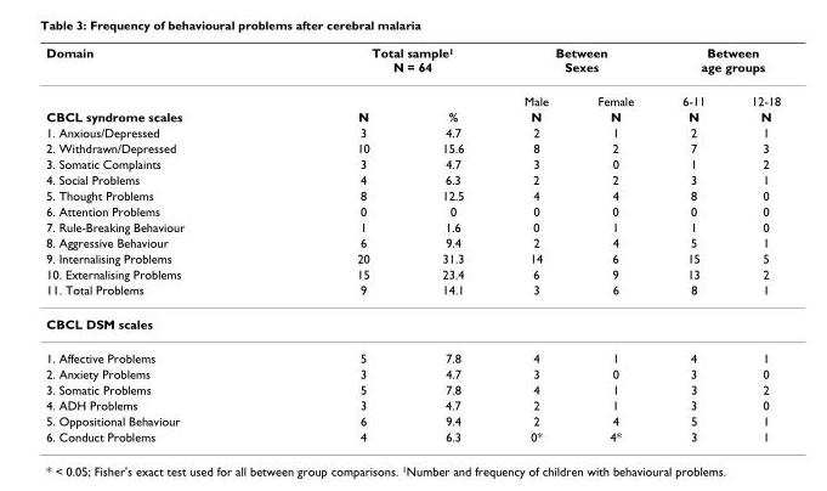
<table><thead><tr><td rowspan="2">Domain</td><td colspan="2">Total sample<sup>1</sup> N = 64</td><td colspan="2">Between Sexes</td><td colspan="2">Between age groups</td></tr><tr><td></td><td></td><td>Male</td><td>Female</td><td>6-11</td><td>12-18</td></tr></thead><tbody><tr><td>CBCL syndrome scales</td><td>N</td><td>%</td><td>N</td><td>N</td><td>N</td><td>N</td></tr><tr><td>1. Anxious/Depressed</td><td>3</td><td>4.7</td><td>2</td><td>1</td><td>2</td><td>1</td></tr><tr><td>2. Withdrawn/Depressed</td><td>10</td><td>15.6</td><td>8</td><td>2</td><td>7</td><td>3</td></tr><tr><td>3. Somatic Complaints</td><td>3</td><td>4.7</td><td>3</td><td>0</td><td>1</td><td>2</td></tr><tr><td>4. Social Problems</td><td>4</td><td>6.3</td><td>2</td><td>2</td><td>3</td><td>1</td></tr><tr><td>5. Thought Problems</td><td>8</td><td>12.5</td><td>4</td><td>4</td><td>8</td><td>0</td></tr><tr><td>6. Attention Problems</td><td>0</td><td>0</td><td>0</td><td>0</td><td>0</td><td>0</td></tr><tr><td>7. Rule-Breaking Behaviour</td><td>1</td><td>1.6</td><td>0</td><td>1</td><td>1</td><td>0</td></tr><tr><td>8. Aggressive Behaviour</td><td>6</td><td>9.4</td><td>2</td><td>4</td><td>5</td><td>1</td></tr><tr><td>9. Internalising Problems</td><td>20</td><td>31.3</td><td>14</td><td>6</td><td>15</td><td>5</td></tr><tr><td>10. Externalising Problems</td><td>15</td><td>23.4</td><td>6</td><td>9</td><td>13</td><td>2</td></tr><tr><td>11. Total Problems</td><td>9</td><td>14.1</td><td>3</td><td>6</td><td>8</td><td>1</td></tr><tr><td colspan="7">CBCL DSM scales</td></tr><tr><td>1. Affective Problems</td><td>5</td><td>7.8</td><td>4</td><td>1</td><td>4</td><td>1</td></tr><tr><td>2. Anxiety Problems</td><td>3</td><td>4.7</td><td>3</td><td>0</td><td>3</td><td>0</td></tr><tr><td>3. Somatic Problems</td><td>5</td><td>7.8</td><td>4</td><td>1</td><td>3</td><td>2</td></tr><tr><td>4. ADH Problems</td><td>3</td><td>4.7</td><td>2</td><td>1</td><td>3</td><td>0</td></tr><tr><td>5. Oppositional Behaviour</td><td>6</td><td>9.4</td><td>2</td><td>4</td><td>5</td><td>1</td></tr><tr><td>6. Conduct Problems</td><td>4</td><td>6.3</td><td>0*</td><td>4*</td><td>3</td><td>1</td></tr></tbody></table>